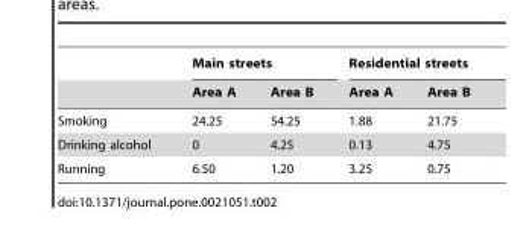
<table><thead><tr><td rowspan="2"></td><td colspan="2">Main streets</td><td colspan="2">Residential streets</td></tr><tr><td>Area A</td><td>Area B</td><td>Area A</td><td>Area B</td></tr></thead><tbody><tr><td>Smoking</td><td>24.25</td><td>54.25</td><td>1.88</td><td>21.75</td></tr><tr><td>Drinking alcohol</td><td>0</td><td>4.25</td><td>0.13</td><td>4.75</td></tr><tr><td>Running</td><td>6.50</td><td>1.20</td><td>3.25</td><td>0.75</td></tr></tbody></table>